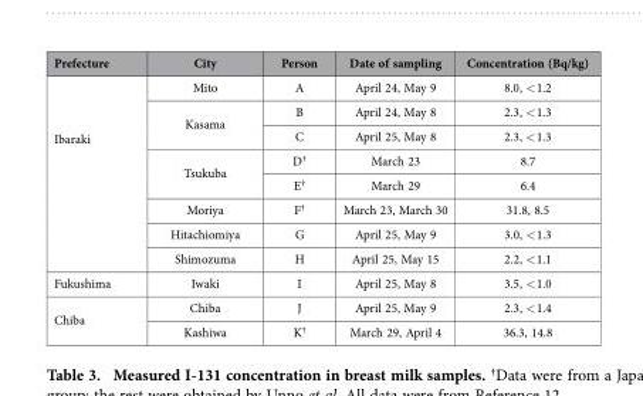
<table><thead><tr><td>Prefecture</td><td>City</td><td>Person</td><td>Date of sampling</td><td>Concentration (Bq/kg)</td></tr></thead><tbody><tr><td rowspan="8">Ibaraki</td><td>Mito</td><td>A</td><td>April 24, May 9</td><td>8.0, &lt; 1.2</td></tr><tr><td rowspan="2">Kasama</td><td>B</td><td>April 24, May 8</td><td>2.3, &lt; 1.3</td></tr><tr><td>C</td><td>April 25, May 8</td><td>2.3, &lt; 1.3</td></tr><tr><td rowspan="2">Tsukuba</td><td>D†</td><td>March 23</td><td>8.7</td></tr><tr><td>E†</td><td>March 29</td><td>6.4</td></tr><tr><td>Moriya</td><td>F†</td><td>March 23, March 30</td><td>31.8, 8.5</td></tr><tr><td>Hitachiomiya</td><td>G</td><td>April 25, May 9</td><td>3.0, &lt; 1.3</td></tr><tr><td>Shimozuma</td><td>H</td><td>April 25, May 15</td><td>2.2, &lt; 1.1</td></tr><tr><td>Fukushima</td><td>Iwaki</td><td>I</td><td>April 25, May 8</td><td>3.5, &lt; 1.0</td></tr><tr><td rowspan="2">Chiba</td><td>Chiba</td><td>J</td><td>April 25, May 9</td><td>2.3, &lt; 1.4</td></tr><tr><td>Kashiwa</td><td>K†</td><td>March 29, April 4</td><td>36.3, 14.8</td></tr></tbody></table>